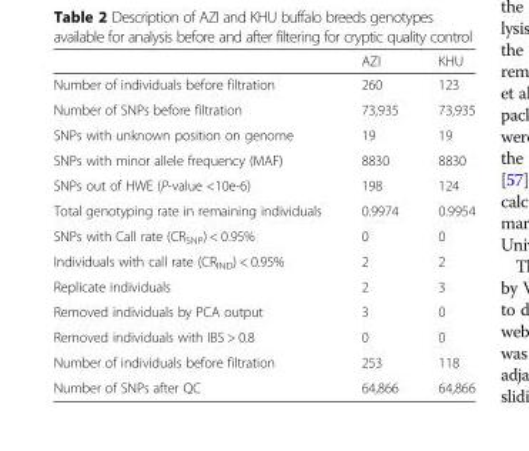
<table><thead><tr><td></td><td>AZI</td><td>KHU</td></tr></thead><tbody><tr><td>Number of individuals before filtration</td><td>260</td><td>123</td></tr><tr><td>Number of SNPs before filtration</td><td>73,935</td><td>73,935</td></tr><tr><td>SNPs with unknown position on genome</td><td>19</td><td>19</td></tr><tr><td>SNPs with minor allele frequency (MAF)</td><td>8830</td><td>8830</td></tr><tr><td>SNPs out of HWE (P-value &lt;10e-6)</td><td>198</td><td>124</td></tr><tr><td>Total genotyping rate in remaining individuals</td><td>0.9974</td><td>0.9954</td></tr><tr><td>SNPs with Call rate (CR<sub>SNP</sub>) &lt; 0.95%</td><td>0</td><td>0</td></tr><tr><td>Individuals with call rate (CR<sub>IND</sub>) &lt; 0.95%</td><td>2</td><td>2</td></tr><tr><td>Replicate individuals</td><td>2</td><td>3</td></tr><tr><td>Removed individuals by PCA output</td><td>3</td><td>0</td></tr><tr><td>Removed individuals with IBS &gt; 0.8</td><td>0</td><td>0</td></tr><tr><td>Number of individuals before filtration</td><td>253</td><td>118</td></tr><tr><td>Number of SNPs after QC</td><td>64,866</td><td>64,866</td></tr></tbody></table>